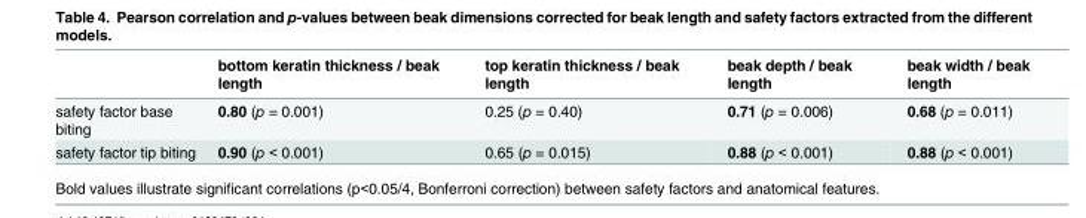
<table><thead><tr><td></td><td>bottom keratin thickness / beak length</td><td>top keratin thickness / beak length</td><td>beak depth / beak length</td><td>beak width / beak length</td></tr></thead><tbody><tr><td>safety factor base biting</td><td>0.80 (p = 0.001)</td><td>0.25 (p = 0.40)</td><td>0.71 (p = 0.006)</td><td>0.68 (p = 0.011)</td></tr><tr><td>safety factor tip biting</td><td>0.90 (p &lt; 0.001)</td><td>0.65 (p = 0.015)</td><td>0.88 (p &lt; 0.001)</td><td>0.88 (p &lt; 0.001)</td></tr></tbody></table>